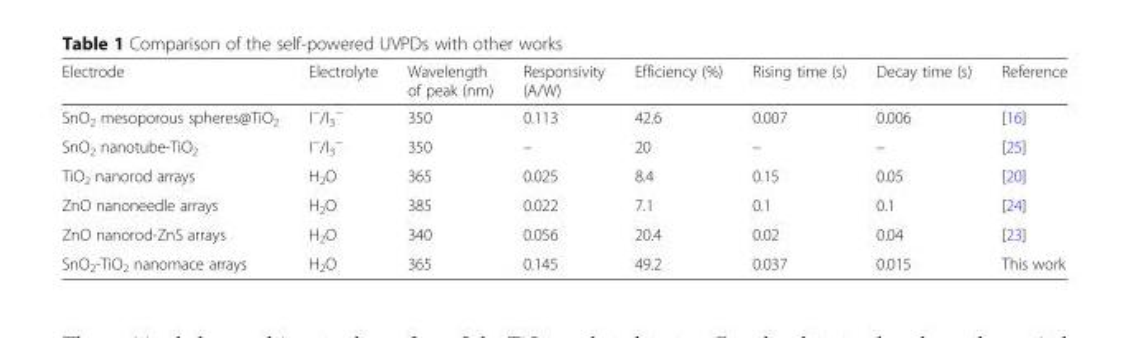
<table><thead><tr><td>Electrode</td><td>Electrolyte</td><td>Wavelength of peak (nm)</td><td>Responsivity (A/W)</td><td>Efficiency (%)</td><td>Rising time (s)</td><td>Decay time (s)</td><td>Reference</td></tr></thead><tbody><tr><td>SnO<sub>2</sub> mesoporous spheres@TiO<sub>2</sub></td><td>I<sup>−</sup>/I<sub>3</sub> <sup>−</sup></td><td>350</td><td>0.113</td><td>42.6</td><td>0.007</td><td>0.006</td><td>[16]</td></tr><tr><td>SnO<sub>2</sub> nanotube-TiO<sub>2</sub></td><td>I<sup>−</sup>/I<sub>3</sub> <sup>−</sup></td><td>350</td><td>–</td><td>20</td><td>–</td><td>–</td><td>[25]</td></tr><tr><td>TiO<sub>2</sub> nanorod arrays</td><td>H<sub>2</sub>O</td><td>365</td><td>0.025</td><td>8.4</td><td>0.15</td><td>0.05</td><td>[20]</td></tr><tr><td>ZnO nanoneedle arrays</td><td>H<sub>2</sub>O</td><td>385</td><td>0.022</td><td>7.1</td><td>0.1</td><td>0.1</td><td>[24]</td></tr><tr><td>ZnO nanorod-ZnS arrays</td><td>H<sub>2</sub>O</td><td>340</td><td>0.056</td><td>20.4</td><td>0.02</td><td>0.04</td><td>[23]</td></tr><tr><td>SnO<sub>2</sub>-TiO<sub>2</sub> nanomace arrays</td><td>H<sub>2</sub>O</td><td>365</td><td>0.145</td><td>49.2</td><td>0.037</td><td>0.015</td><td>This work</td></tr></tbody></table>